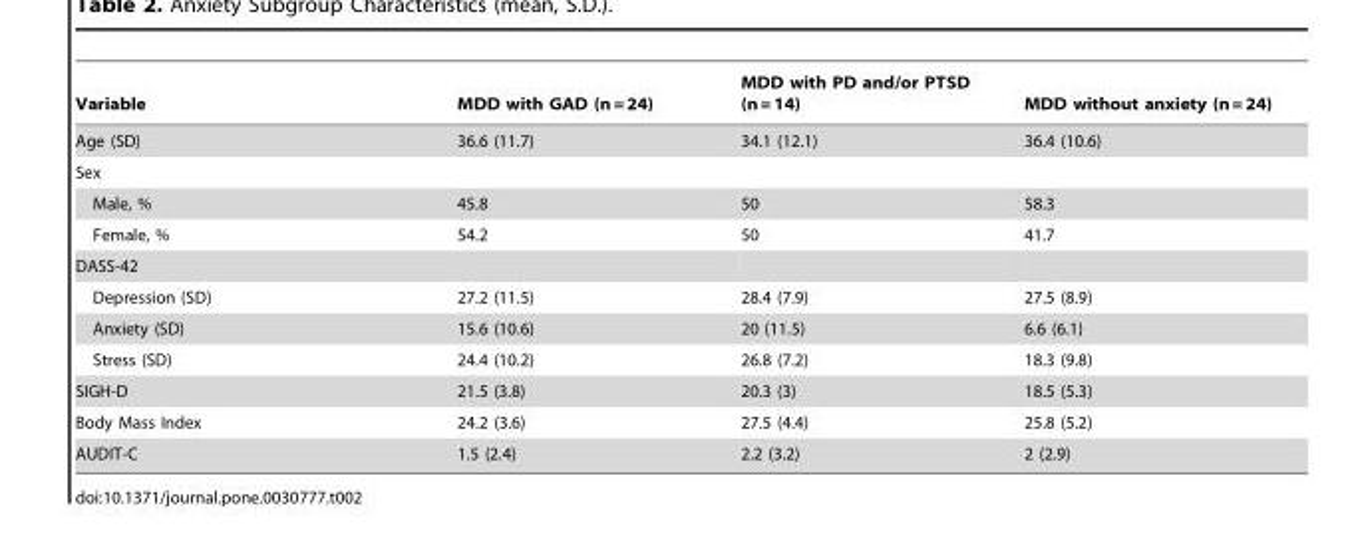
<table><thead><tr><td>Variable</td><td>MDD with GAD (n = 24)</td><td>MDD with PD and/or PTSD (n = 14)</td><td>MDD without anxiety (n = 24)</td></tr></thead><tbody><tr><td>Age (SD)</td><td>36.6 (11.7)</td><td>34.1 (12.1)</td><td>36.4 (10.6)</td></tr><tr><td colspan="4">Sex</td></tr><tr><td>Male, %</td><td>45.8</td><td>50</td><td>58.3</td></tr><tr><td>Female, %</td><td>54.2</td><td>50</td><td>41.7</td></tr><tr><td colspan="4">DASS-42</td></tr><tr><td>Depression (SD)</td><td>27.2 (11.5)</td><td>28.4 (7.9)</td><td>27.5 (8.9)</td></tr><tr><td>Anxiety (SD)</td><td>15.6 (10.6)</td><td>20 (11.5)</td><td>6.6 (6.1)</td></tr><tr><td>Stress (SD)</td><td>24.4 (10.2)</td><td>26.8 (7.2)</td><td>18.3 (9.8)</td></tr><tr><td>SIGH-D</td><td>21.5 (3.8)</td><td>20.3 (3)</td><td>18.5 (5.3)</td></tr><tr><td>Body Mass Index</td><td>24.2 (3.6)</td><td>27.5 (4.4)</td><td>25.8 (5.2)</td></tr><tr><td>AUDIT-C</td><td>1.5 (2.4)</td><td>2.2 (3.2)</td><td>2 (2.9)</td></tr></tbody></table>